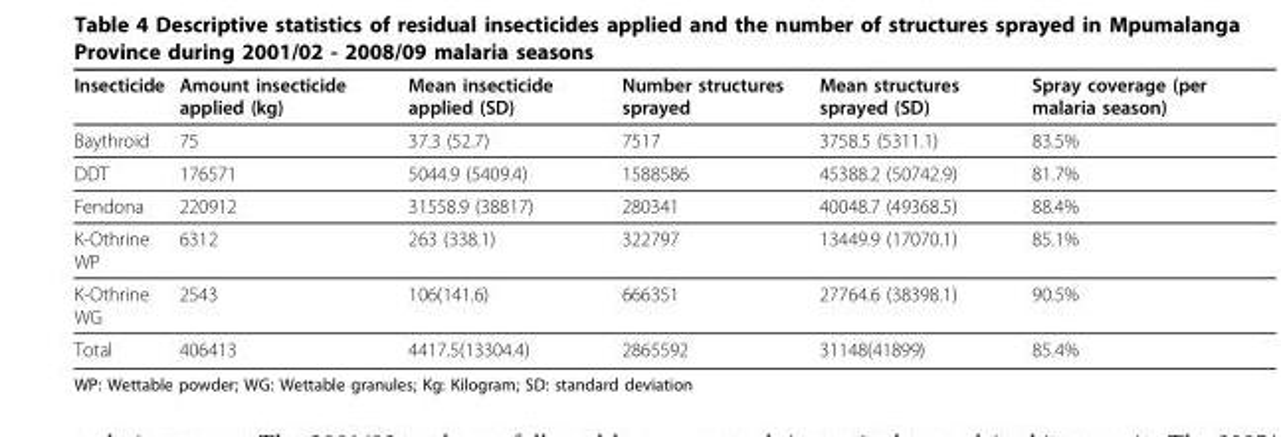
<table><thead><tr><td>Insecticide</td><td>Amount insecticide applied (kg)</td><td>Mean insecticide applied (SD)</td><td>Number structures sprayed</td><td>Mean structures sprayed (SD)</td><td>Spray coverage (per malaria season)</td></tr></thead><tbody><tr><td>Baythroid</td><td>75</td><td>37.3 (52.7)</td><td>7517</td><td>3758.5 (5311.1)</td><td>83.5%</td></tr><tr><td>DDT</td><td>176571</td><td>5044.9 (5409.4)</td><td>1588586</td><td>45388.2 (50742.9)</td><td>81.7%</td></tr><tr><td>Fendona</td><td>220912</td><td>31558.9 (38817)</td><td>280341</td><td>40048.7 (49368.5)</td><td>88.4%</td></tr><tr><td>K-Othrine WP</td><td>6312</td><td>263 (338.1)</td><td>322797</td><td>13449.9 (17070.1)</td><td>85.1%</td></tr><tr><td>K-Othrine WG</td><td>2543</td><td>106(141.6)</td><td>666351</td><td>27764.6 (38398.1)</td><td>90.5%</td></tr><tr><td>Total</td><td>406413</td><td>4417.5(13304.4)</td><td>2865592</td><td>31148(41899)</td><td>85.4%</td></tr></tbody></table>